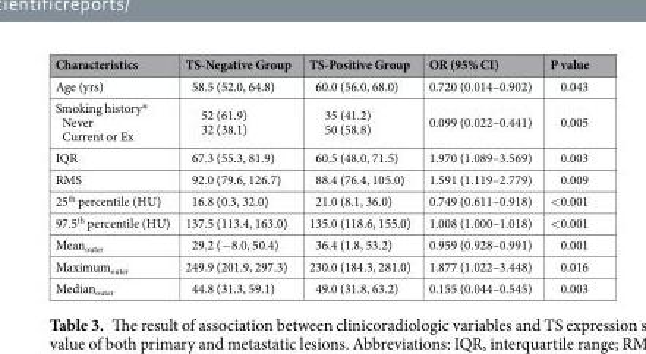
<table><thead><tr><td>Characteristics</td><td>TS-Negative Group</td><td>TS-Positive Group</td><td>OR (95% CI)</td><td>P value</td></tr></thead><tbody><tr><td>Age (yrs)</td><td>58.5 (52.0, 64.8)</td><td>60.0 (56.0, 68.0)</td><td>0.720 (0.014–0.902)</td><td>0.043</td></tr><tr><td>Smoking history* Never Current or Ex</td><td>52 (61.9) 32 (38.1)</td><td>35 (41.2) 50 (58.8)</td><td>0.099 (0.022–0.441)</td><td>0.005</td></tr><tr><td>IQR</td><td>67.3 (55.3, 81.9)</td><td>60.5 (48.0, 71.5)</td><td>1.970 (1.089–3.569)</td><td>0.003</td></tr><tr><td>RMS</td><td>92.0 (79.6, 126.7)</td><td>88.4 (76.4, 105.0)</td><td>1.591 (1.119–2.779)</td><td>0.009</td></tr><tr><td>25<sup>th</sup> percentile (HU)</td><td>16.8 (0.3, 32.0)</td><td>21.0 (8.1, 36.0)</td><td>0.749 (0.611–0.918)</td><td>&lt;0.001</td></tr><tr><td>97.5<sup>th</sup> percentile (HU)</td><td>137.5 (113.4, 163.0)</td><td>135.0 (118.6, 155.0)</td><td>1.008 (1.000–1.018)</td><td>&lt;0.001</td></tr><tr><td>Mean<sub>outer</sub></td><td>29.2 (−8.0, 50.4)</td><td>36.4 (1.8, 53.2)</td><td>0.959 (0.928–0.991)</td><td>0.001</td></tr><tr><td>Maximum<sub>outer</sub></td><td>249.9 (201.9, 297.3)</td><td>230.0 (184.3, 281.0)</td><td>1.877 (1.022–3.448)</td><td>0.016</td></tr><tr><td>Median<sub>outer</sub></td><td>44.8 (31.3, 59.1)</td><td>49.0 (31.8, 63.2)</td><td>0.155 (0.044–0.545)</td><td>0.003</td></tr></tbody></table>